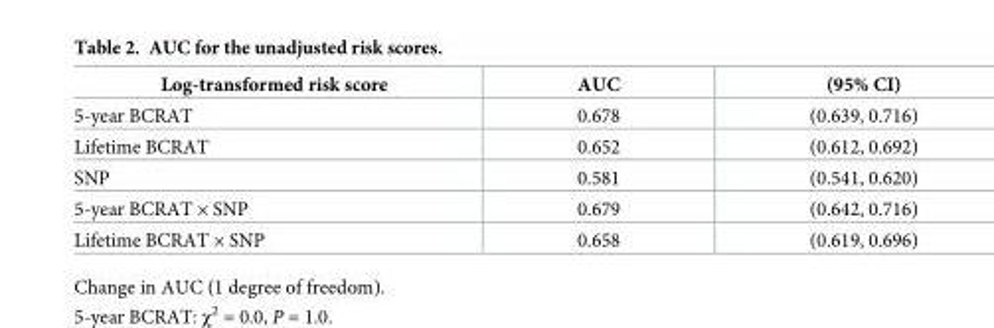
<table><thead><tr><td>Log-transformed risk score</td><td>AUC</td><td>(95% CI)</td></tr></thead><tbody><tr><td>5-year BCRAT</td><td>0.678</td><td>(0.639, 0.716)</td></tr><tr><td>Lifetime BCRAT</td><td>0.652</td><td>(0.612, 0.692)</td></tr><tr><td>SNP</td><td>0.581</td><td>(0.541, 0.620)</td></tr><tr><td>5-year BCRAT × SNP</td><td>0.679</td><td>(0.642, 0.716)</td></tr><tr><td>Lifetime BCRAT × SNP</td><td>0.658</td><td>(0.619, 0.696)</td></tr></tbody></table>